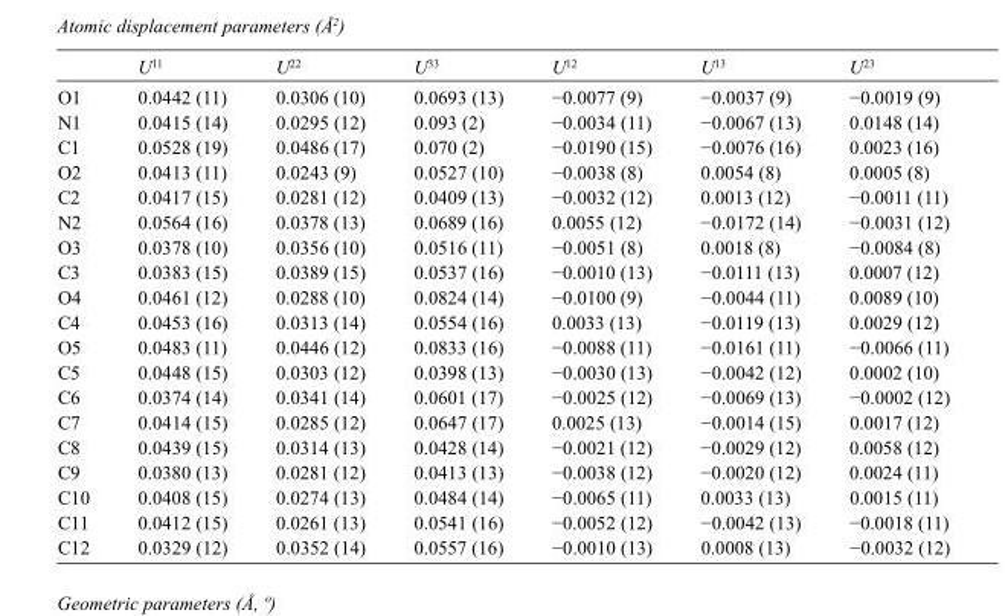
<table><thead><tr><td></td><td>U<sup>11</sup></td><td>U<sup>22</sup></td><td>U<sup>33</sup></td><td>U<sup>12</sup></td><td>U<sup>13</sup></td><td>U<sup>23</sup></td></tr></thead><tbody><tr><td>O1</td><td>0.0442 (11)</td><td>0.0306 (10)</td><td>0.0693 (13)</td><td>−0.0077 (9)</td><td>−0.0037 (9)</td><td>−0.0019 (9)</td></tr><tr><td>N1</td><td>0.0415 (14)</td><td>0.0295 (12)</td><td>0.093 (2)</td><td>−0.0034 (11)</td><td>−0.0067 (13)</td><td>0.0148 (14)</td></tr><tr><td>C1</td><td>0.0528 (19)</td><td>0.0486 (17)</td><td>0.070 (2)</td><td>−0.0190 (15)</td><td>−0.0076 (16)</td><td>0.0023 (16)</td></tr><tr><td>O2</td><td>0.0413 (11)</td><td>0.0243 (9)</td><td>0.0527 (10)</td><td>−0.0038 (8)</td><td>0.0054 (8)</td><td>0.0005 (8)</td></tr><tr><td>C2</td><td>0.0417 (15)</td><td>0.0281 (12)</td><td>0.0409 (13)</td><td>−0.0032 (12)</td><td>0.0013 (12)</td><td>−0.0011 (11)</td></tr><tr><td>N2</td><td>0.0564 (16)</td><td>0.0378 (13)</td><td>0.0689 (16)</td><td>0.0055 (12)</td><td>−0.0172 (14)</td><td>−0.0031 (12)</td></tr><tr><td>O3</td><td>0.0378 (10)</td><td>0.0356 (10)</td><td>0.0516 (11)</td><td>−0.0051 (8)</td><td>0.0018 (8)</td><td>−0.0084 (8)</td></tr><tr><td>C3</td><td>0.0383 (15)</td><td>0.0389 (15)</td><td>0.0537 (16)</td><td>−0.0010 (13)</td><td>−0.0111 (13)</td><td>0.0007 (12)</td></tr><tr><td>O4</td><td>0.0461 (12)</td><td>0.0288 (10)</td><td>0.0824 (14)</td><td>−0.0100 (9)</td><td>−0.0044 (11)</td><td>0.0089 (10)</td></tr><tr><td>C4</td><td>0.0453 (16)</td><td>0.0313 (14)</td><td>0.0554 (16)</td><td>0.0033 (13)</td><td>−0.0119 (13)</td><td>0.0029 (12)</td></tr><tr><td>O5</td><td>0.0483 (11)</td><td>0.0446 (12)</td><td>0.0833 (16)</td><td>−0.0088 (11)</td><td>−0.0161 (11)</td><td>−0.0066 (11)</td></tr><tr><td>C5</td><td>0.0448 (15)</td><td>0.0303 (12)</td><td>0.0398 (13)</td><td>−0.0030 (13)</td><td>−0.0042 (12)</td><td>0.0002 (10)</td></tr><tr><td>C6</td><td>0.0374 (14)</td><td>0.0341 (14)</td><td>0.0601 (17)</td><td>−0.0025 (12)</td><td>−0.0069 (13)</td><td>−0.0002 (12)</td></tr><tr><td>C7</td><td>0.0414 (15)</td><td>0.0285 (12)</td><td>0.0647 (17)</td><td>0.0025 (13)</td><td>−0.0014 (15)</td><td>0.0017 (12)</td></tr><tr><td>C8</td><td>0.0439 (15)</td><td>0.0314 (13)</td><td>0.0428 (14)</td><td>−0.0021 (12)</td><td>−0.0029 (12)</td><td>0.0058 (12)</td></tr><tr><td>C9</td><td>0.0380 (13)</td><td>0.0281 (12)</td><td>0.0413 (13)</td><td>−0.0038 (12)</td><td>−0.0020 (12)</td><td>0.0024 (11)</td></tr><tr><td>C10</td><td>0.0408 (15)</td><td>0.0274 (13)</td><td>0.0484 (14)</td><td>−0.0065 (11)</td><td>0.0033 (13)</td><td>0.0015 (11)</td></tr><tr><td>C11</td><td>0.0412 (15)</td><td>0.0261 (13)</td><td>0.0541 (16)</td><td>−0.0052 (12)</td><td>−0.0042 (13)</td><td>−0.0018 (11)</td></tr><tr><td>C12</td><td>0.0329 (12)</td><td>0.0352 (14)</td><td>0.0557 (16)</td><td>−0.0010 (13)</td><td>0.0008 (13)</td><td>−0.0032 (12)</td></tr></tbody></table>